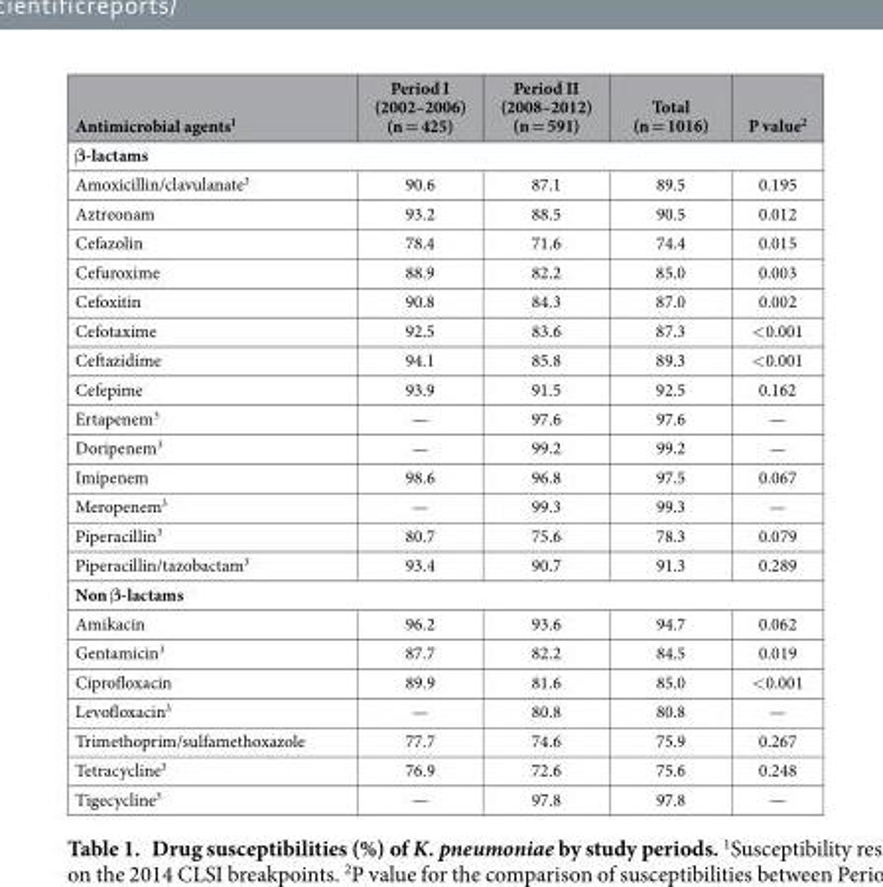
<table><thead><tr><td>Antimicrobial agents<sup>1</sup></td><td>Period I (2002–2006) (n = 425)</td><td>Period II (2008–2012) (n = 591)</td><td>Total (n = 1016)</td><td>P value<sup>2</sup></td></tr></thead><tbody><tr><td colspan="5">β-lactams</td></tr><tr><td>Amoxicillin/clavulanate<sup>3</sup></td><td>90.6</td><td>87.1</td><td>89.5</td><td>0.195</td></tr><tr><td>Aztreonam</td><td>93.2</td><td>88.5</td><td>90.5</td><td>0.012</td></tr><tr><td>Cefazolin</td><td>78.4</td><td>71.6</td><td>74.4</td><td>0.015</td></tr><tr><td>Cefuroxime</td><td>88.9</td><td>82.2</td><td>85.0</td><td>0.003</td></tr><tr><td>Cefoxitin</td><td>90.8</td><td>84.3</td><td>87.0</td><td>0.002</td></tr><tr><td>Cefotaxime</td><td>92.5</td><td>83.6</td><td>87.3</td><td>&lt; 0.001</td></tr><tr><td>Ceftazidime</td><td>94.1</td><td>85.8</td><td>89.3</td><td>&lt; 0.001</td></tr><tr><td>Cefepime</td><td>93.9</td><td>91.5</td><td>92.5</td><td>0.162</td></tr><tr><td>Ertapenem<sup>3</sup></td><td>—</td><td>97.6</td><td>97.6</td><td>—</td></tr><tr><td>Doripenem<sup>3</sup></td><td>—</td><td>99.2</td><td>99.2</td><td>—</td></tr><tr><td>Imipenem</td><td>98.6</td><td>96.8</td><td>97.5</td><td>0.067</td></tr><tr><td>Meropenem<sup>3</sup></td><td>—</td><td>99.3</td><td>99.3</td><td>—</td></tr><tr><td>Piperacillin<sup>3</sup></td><td>80.7</td><td>75.6</td><td>78.3</td><td>0.079</td></tr><tr><td>Piperacillin/tazobactam<sup>3</sup></td><td>93.4</td><td>90.7</td><td>91.3</td><td>0.289</td></tr><tr><td colspan="5">Non β-lactams</td></tr><tr><td>Amikacin</td><td>96.2</td><td>93.6</td><td>94.7</td><td>0.062</td></tr><tr><td>Gentamicin<sup>3</sup></td><td>87.7</td><td>82.2</td><td>84.5</td><td>0.019</td></tr><tr><td>Ciprofloxacin</td><td>89.9</td><td>81.6</td><td>85.0</td><td>&lt; 0.001</td></tr><tr><td>Levofloxacin<sup>3</sup></td><td>—</td><td>80.8</td><td>80.8</td><td>—</td></tr><tr><td>Trimethoprim/sulfamethoxazole</td><td>77.7</td><td>74.6</td><td>75.9</td><td>0.267</td></tr><tr><td>Tetracycline<sup>3</sup></td><td>76.9</td><td>72.6</td><td>75.6</td><td>0.248</td></tr><tr><td>Tigecycline<sup>3</sup></td><td>—</td><td>97.8</td><td>97.8</td><td>—</td></tr></tbody></table>